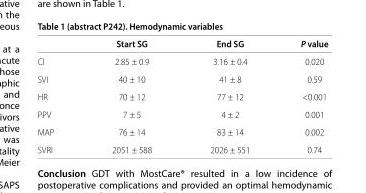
<table><thead><tr><td></td><td>Start SG</td><td>End SG</td><td>P value</td></tr></thead><tbody><tr><td>CI</td><td>2.85 ± 0.9</td><td>3.16 ± 0.4</td><td>0.020</td></tr><tr><td>SVI</td><td>40 ± 10</td><td>41 ± 8</td><td>0.59</td></tr><tr><td>HR</td><td>70 ± 12</td><td>77 ± 12</td><td>&lt;0.001</td></tr><tr><td>PPV</td><td>7 ± 5</td><td>4 ± 2</td><td>0.001</td></tr><tr><td>MAP</td><td>76 ± 14</td><td>83 ± 14</td><td>0.002</td></tr><tr><td>SVRI</td><td>2051 ± 588</td><td>2026 ± 551</td><td>0.74</td></tr></tbody></table>